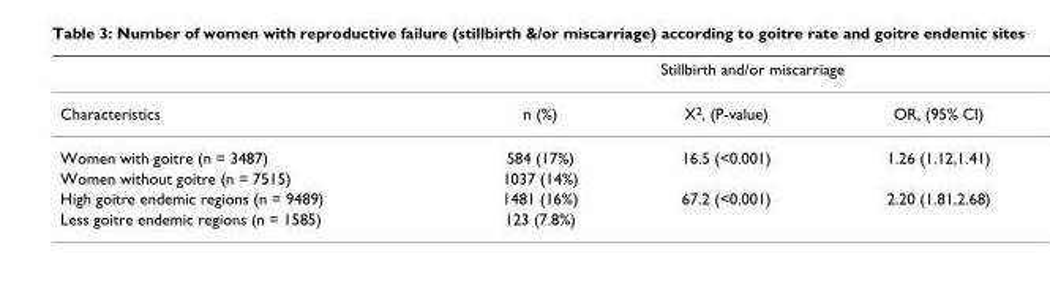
<table><thead><tr><td rowspan="2">Characteristics</td><td colspan="3">Stillbirth and/or miscarriage</td></tr><tr><td>n (%)</td><td>X<sup>2</sup>, (P-value)</td><td>OR, (95% CI)</td></tr></thead><tbody><tr><td>Women with goitre (n = 3487)</td><td>584 (17%)</td><td>16.5 (&lt;0.001)</td><td>1.26 (1.12,1.41)</td></tr><tr><td>Women without goitre (n = 7515)</td><td>1037 (14%)</td><td></td><td></td></tr><tr><td>High goitre endemic regions (n = 9489)</td><td>1481 (16%)</td><td>67.2 (&lt;0.001)</td><td>2.20 (1.81,2.68)</td></tr><tr><td>Less goitre endemic regions (n = 1585)</td><td>123 (7.8%)</td><td></td><td></td></tr></tbody></table>